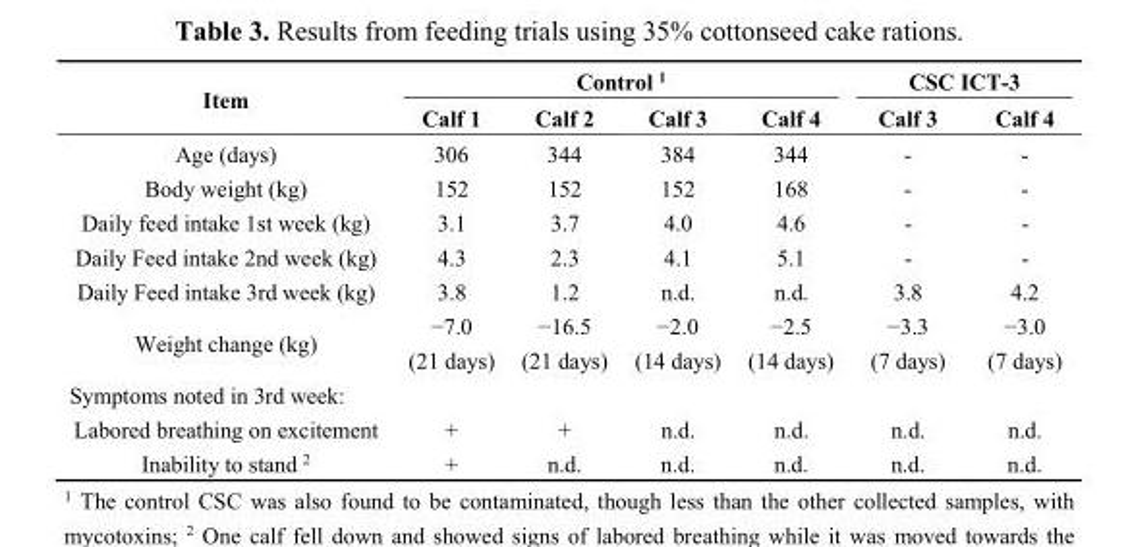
<table><thead><tr><td rowspan="2">Item</td><td colspan="4">Control <sup>1</sup></td><td colspan="2">CSC ICT-3</td></tr><tr><td>Calf 1</td><td>Calf 2</td><td>Calf 3</td><td>Calf 4</td><td>Calf 3</td><td>Calf 4</td></tr></thead><tbody><tr><td>Age (days)</td><td>306</td><td>344</td><td>384</td><td>344</td><td>-</td><td>-</td></tr><tr><td>Body weight (kg)</td><td>152</td><td>152</td><td>152</td><td>168</td><td>-</td><td>-</td></tr><tr><td>Daily feed intake 1st week (kg)</td><td>3.1</td><td>3.7</td><td>4.0</td><td>4.6</td><td>-</td><td>-</td></tr><tr><td>Daily Feed intake 2nd week (kg)</td><td>4.3</td><td>2.3</td><td>4.1</td><td>5.1</td><td>-</td><td>-</td></tr><tr><td>Daily Feed intake 3rd week (kg)</td><td>3.8</td><td>1.2</td><td>n.d.</td><td>n.d.</td><td>3.8</td><td>4.2</td></tr><tr><td rowspan="2">Weight change (kg)</td><td>−7.0</td><td>−16.5</td><td>−2.0</td><td>−2.5</td><td>−3.3</td><td>−3.0</td></tr><tr><td>(21 days)</td><td>(21 days)</td><td>(14 days)</td><td>(14 days)</td><td>(7 days)</td><td>(7 days)</td></tr><tr><td colspan="7">Symptoms noted in 3rd week:</td></tr><tr><td>Labored breathing on excitement</td><td>+</td><td>+</td><td>n.d.</td><td>n.d.</td><td>n.d.</td><td>n.d.</td></tr><tr><td>Inability to stand <sup>2</sup></td><td>+</td><td>n.d.</td><td>n.d.</td><td>n.d.</td><td>n.d.</td><td>n.d.</td></tr></tbody></table>